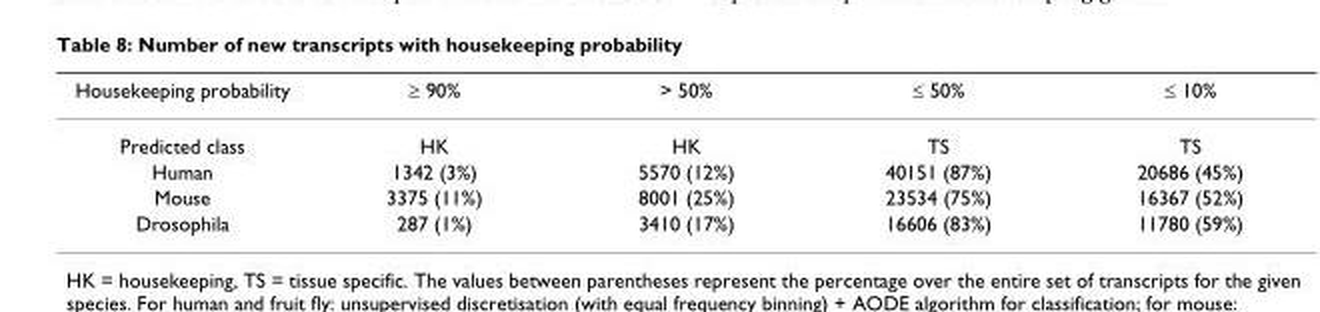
<table><thead><tr><td>Housekeeping probability</td><td>≥ 90%</td><td>&gt; 50%</td><td>≤ 50%</td><td>≤ 10%</td></tr></thead><tbody><tr><td>Predicted class</td><td>HK</td><td>HK</td><td>TS</td><td>TS</td></tr><tr><td>Human</td><td>1342 (3%)</td><td>5570 (12%)</td><td>40151 (87%)</td><td>20686 (45%)</td></tr><tr><td>Mouse</td><td>3375 (11%)</td><td>8001 (25%)</td><td>23534 (75%)</td><td>16367 (52%)</td></tr><tr><td>Drosophila</td><td>287 (1%)</td><td>3410 (17%)</td><td>16606 (83%)</td><td>11780 (59%)</td></tr></tbody></table>